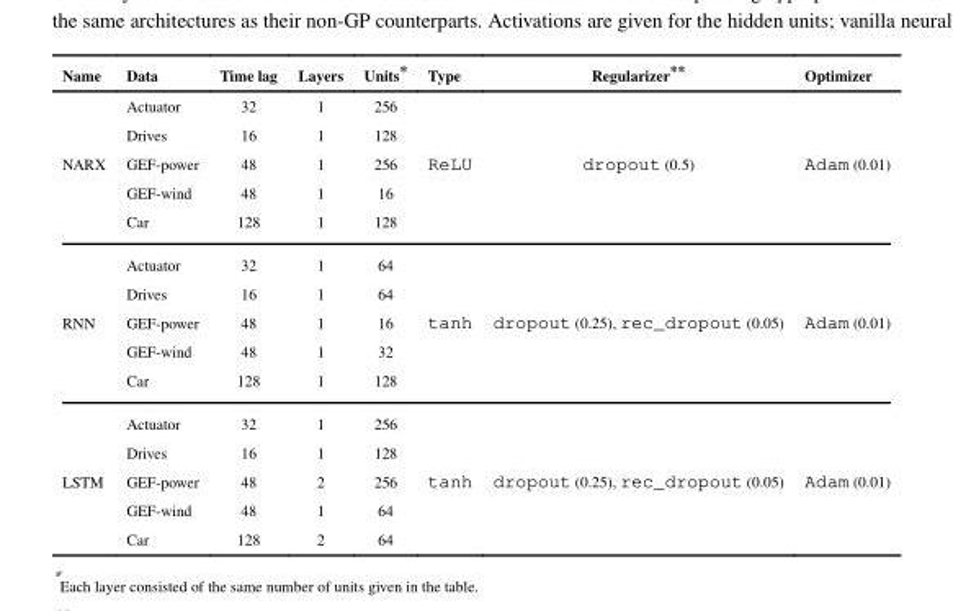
<table><thead><tr><td>Name</td><td>Data</td><td>Time lag</td><td>Layers</td><td>Units*</td><td>Type</td><td>Regularizer**</td><td>Optimizer</td></tr></thead><tbody><tr><td rowspan="5">NARX</td><td>Actuator</td><td>32</td><td>1</td><td>256</td><td rowspan="5">ReLU</td><td rowspan="5">dropout (0.5)</td><td rowspan="5">Adam (0.01)</td></tr><tr><td>Drives</td><td>16</td><td>1</td><td>128</td></tr><tr><td>GEF-power</td><td>48</td><td>1</td><td>256</td></tr><tr><td>GEF-wind</td><td>48</td><td>1</td><td>16</td></tr><tr><td>Car</td><td>128</td><td>1</td><td>128</td></tr><tr><td rowspan="5">RNN</td><td>Actuator</td><td>32</td><td>1</td><td>64</td><td rowspan="5">tanh</td><td rowspan="5">dropout (0.25), rec_dropout (0.05)</td><td rowspan="5">Adam (0.01)</td></tr><tr><td>Drives</td><td>16</td><td>1</td><td>64</td></tr><tr><td>GEF-power</td><td>48</td><td>1</td><td>16</td></tr><tr><td>GEF-wind</td><td>48</td><td>1</td><td>32</td></tr><tr><td>Car</td><td>128</td><td>1</td><td>128</td></tr><tr><td rowspan="5">LSTM</td><td>Actuator</td><td>32</td><td>1</td><td>256</td><td rowspan="5">tanh</td><td rowspan="5">dropout (0.25), rec_dropout (0.05)</td><td rowspan="5">Adam (0.01)</td></tr><tr><td>Drives</td><td>16</td><td>1</td><td>128</td></tr><tr><td>GEF-power</td><td>48</td><td>2</td><td>256</td></tr><tr><td>GEF-wind</td><td>48</td><td>1</td><td>64</td></tr><tr><td>Car</td><td>128</td><td>2</td><td>64</td></tr></tbody></table>